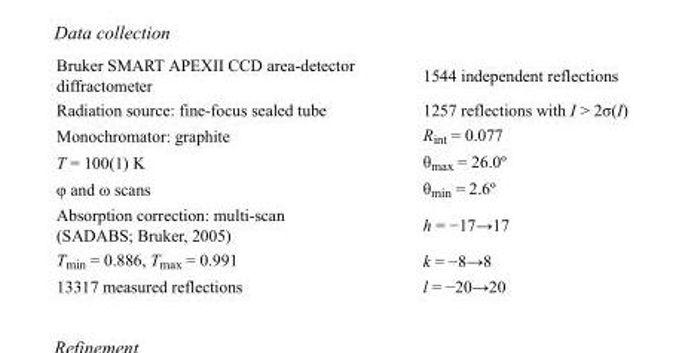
<table><tbody><tr><td>Bruker SMART APEXII CCD area-detector diffractometer</td><td>1544 independent reflections</td></tr><tr><td>Radiation source: fine-focus sealed tube</td><td>1257 reflections with I &gt; 2σ(I)</td></tr><tr><td>Monochromator: graphite</td><td>R<sub>int</sub> = 0.077</td></tr><tr><td>T = 100(1) K</td><td>θ<sub>max</sub> = 26.0º</td></tr><tr><td>φ and ω scans</td><td>θ<sub>min</sub> = 2.6º</td></tr><tr><td>Absorption correction: multi-scan (SADABS; Bruker, 2005)</td><td>h = −17→17</td></tr><tr><td>T<sub>min</sub> = 0.886, T<sub>max</sub> = 0.991</td><td>k = −8→8</td></tr><tr><td>13317 measured reflections</td><td>l = −20→20</td></tr></tbody></table>